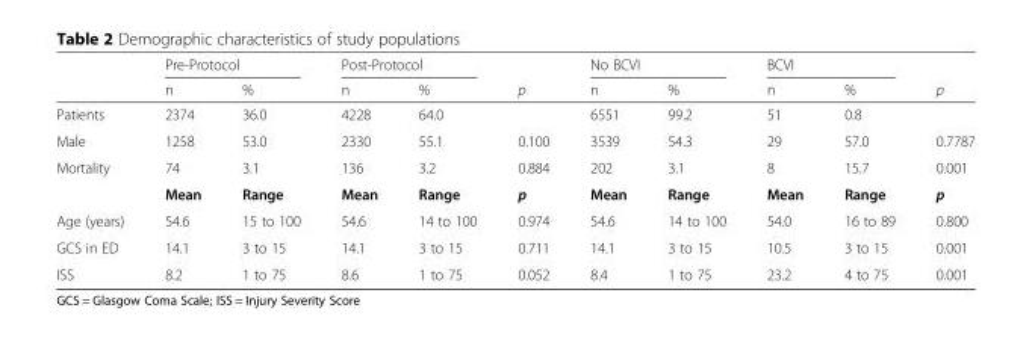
<table><thead><tr><td rowspan="2"></td><td colspan="2">Pre-Protocol</td><td colspan="2">Post-Protocol</td><td rowspan="2">p</td><td colspan="2">No BCVI</td><td colspan="2">BCVI</td><td rowspan="2">p</td></tr><tr><td>n</td><td>%</td><td>n</td><td>%</td><td>n</td><td>%</td><td>n</td><td>%</td></tr></thead><tbody><tr><td>Patients</td><td>2374</td><td>36.0</td><td>4228</td><td>64.0</td><td></td><td>6551</td><td>99.2</td><td>51</td><td>0.8</td><td></td></tr><tr><td>Male</td><td>1258</td><td>53.0</td><td>2330</td><td>55.1</td><td>0.100</td><td>3539</td><td>54.3</td><td>29</td><td>57.0</td><td>0.7787</td></tr><tr><td rowspan="2">Mortality</td><td>74</td><td>3.1</td><td>136</td><td>3.2</td><td>0.884</td><td>202</td><td>3.1</td><td>8</td><td>15.7</td><td>0.001</td></tr><tr><td>Mean</td><td>Range</td><td>Mean</td><td>Range</td><td>p</td><td>Mean</td><td>Range</td><td>Mean</td><td>Range</td><td>p</td></tr><tr><td>Age (years)</td><td>54.6</td><td>15 to 100</td><td>54.6</td><td>14 to 100</td><td>0.974</td><td>54.6</td><td>14 to 100</td><td>54.0</td><td>16 to 89</td><td>0.800</td></tr><tr><td>GCS in ED</td><td>14.1</td><td>3 to 15</td><td>14.1</td><td>3 to 15</td><td>0.711</td><td>14.1</td><td>3 to 15</td><td>10.5</td><td>3 to 15</td><td>0.001</td></tr><tr><td>ISS</td><td>8.2</td><td>1 to 75</td><td>8.6</td><td>1 to 75</td><td>0.052</td><td>8.4</td><td>1 to 75</td><td>23.2</td><td>4 to 75</td><td>0.001</td></tr></tbody></table>